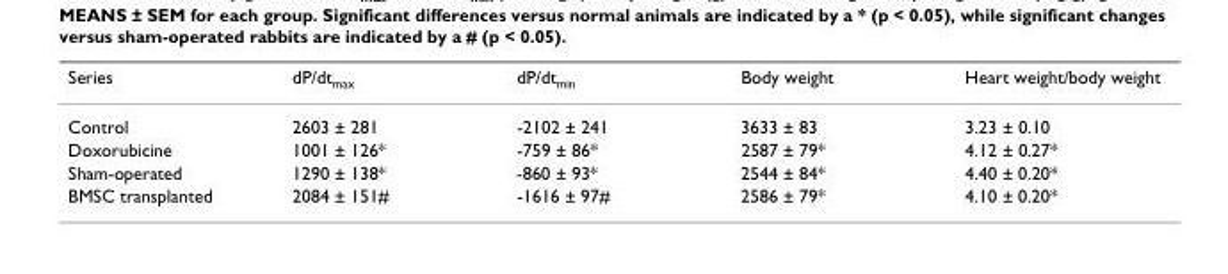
<table><thead><tr><td>Series</td><td>dP/dt<sub>max</sub></td><td>dP/dt<sub>min</sub></td><td>Body weight</td><td>Heart weight/body weight</td></tr></thead><tbody><tr><td>Control</td><td>2603 ± 281</td><td>-2102 ± 241</td><td>3633 ± 83</td><td>3.23 ± 0.10</td></tr><tr><td>Doxorubicine</td><td>1001 ± 126*</td><td>-759 ± 86*</td><td>2587 ± 79*</td><td>4.12 ± 0.27*</td></tr><tr><td>Sham-operated</td><td>1290 ± 138*</td><td>-860 ± 93*</td><td>2544 ± 84*</td><td>4.40 ± 0.20*</td></tr><tr><td>BMSC transplanted</td><td>2084 ± 151#</td><td>-1616 ± 97#</td><td>2586 ± 79*</td><td>4.10 ± 0.20*</td></tr></tbody></table>